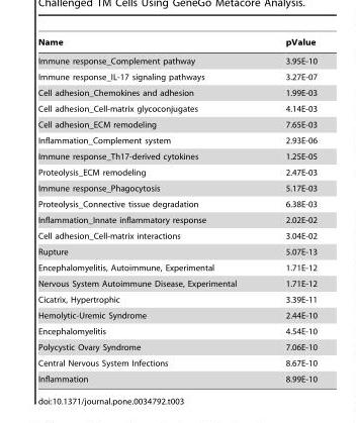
<table><thead><tr><td>Name</td><td>pValue</td></tr></thead><tbody><tr><td>Immune response_Complement pathway</td><td>3.95E-10</td></tr><tr><td>Immune response_IL-17 signaling pathways</td><td>3.27E-07</td></tr><tr><td>Cell adhesion_Chemokines and adhesion</td><td>1.99E-03</td></tr><tr><td>Cell adhesion_Cell-matrix glycoconjugates</td><td>4.14E-03</td></tr><tr><td>Cell adhesion_ECM remodeling</td><td>7.65E-03</td></tr><tr><td>Inflammation_Complement system</td><td>2.93E-06</td></tr><tr><td>Immune response_Th17-derived cytokines</td><td>1.25E-05</td></tr><tr><td>Proteolysis_ECM remodeling</td><td>2.47E-03</td></tr><tr><td>Immune response_Phagocytosis</td><td>5.17E-03</td></tr><tr><td>Proteolysis_Connective tissue degradation</td><td>6.38E-03</td></tr><tr><td>Inflammation_Innate inflammatory response</td><td>2.02E-02</td></tr><tr><td>Cell adhesion_Cell-matrix interactions</td><td>3.04E-02</td></tr><tr><td>Rupture</td><td>5.07E-13</td></tr><tr><td>Encephalomyelitis, Autoimmune, Experimental</td><td>1.71E-12</td></tr><tr><td>Nervous System Autoimmune Disease, Experimental</td><td>1.71E-12</td></tr><tr><td>Cicatrix, Hypertrophic</td><td>3.39E-11</td></tr><tr><td>Hemolytic-Uremic Syndrome</td><td>2.44E-10</td></tr><tr><td>Encephalomyelitis</td><td>4.54E-10</td></tr><tr><td>Polycystic Ovary Syndrome</td><td>7.06E-10</td></tr><tr><td>Central Nervous System Infections</td><td>8.67E-10</td></tr><tr><td>Inflammation</td><td>8.99E-10</td></tr></tbody></table>